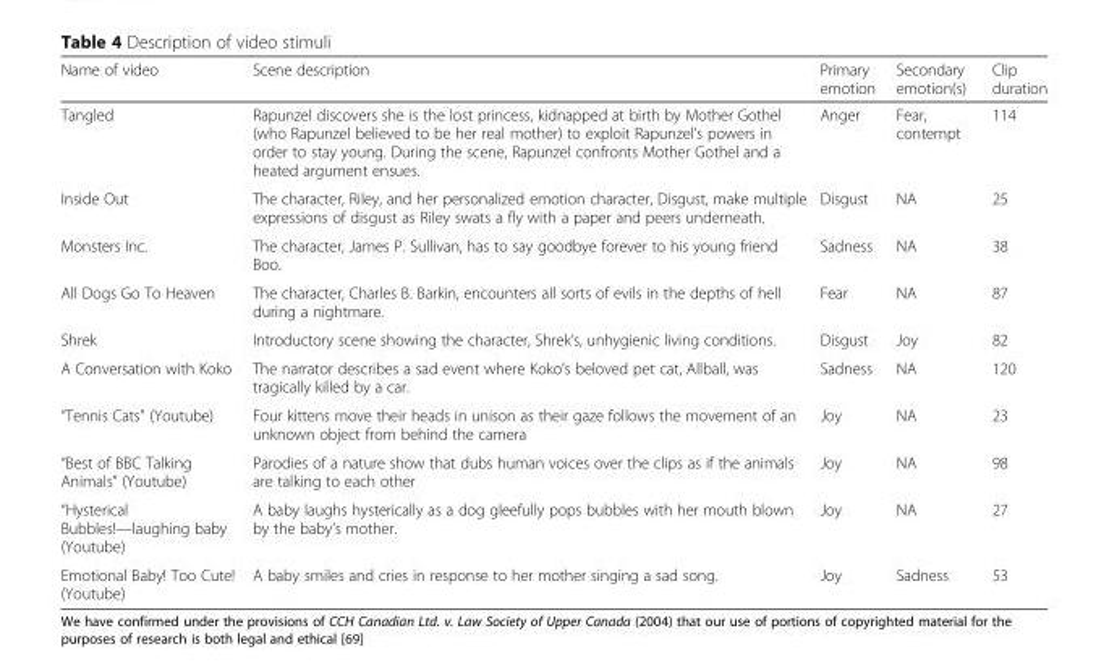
<table><thead><tr><td>Name of video</td><td>Scene description</td><td>Primary emotion</td><td>Secondary emotion(s)</td><td>Clip duration</td></tr></thead><tbody><tr><td>Tangled</td><td>Rapunzel discovers she is the lost princess, kidnapped at birth by Mother Gothel (who Rapunzel believed to be her real mother) to exploit Rapunzel’s powers in order to stay young. During the scene, Rapunzel confronts Mother Gothel and a heated argument ensues.</td><td>Anger</td><td>Fear, contempt</td><td>114</td></tr><tr><td>Inside Out</td><td>The character, Riley, and her personalized emotion character, Disgust, make multiple expressions of disgust as Riley swats a fly with a paper and peers underneath.</td><td>Disgust</td><td>NA</td><td>25</td></tr><tr><td>Monsters Inc.</td><td>The character, James P. Sullivan, has to say goodbye forever to his young friend Boo.</td><td>Sadness</td><td>NA</td><td>38</td></tr><tr><td>All Dogs Go To Heaven</td><td>The character, Charles B. Barkin, encounters all sorts of evils in the depths of hell during a nightmare.</td><td>Fear</td><td>NA</td><td>87</td></tr><tr><td>Shrek</td><td>Introductory scene showing the character, Shrek’s, unhygienic living conditions.</td><td>Disgust</td><td>Joy</td><td>82</td></tr><tr><td>A Conversation with Koko</td><td>The narrator describes a sad event where Koko’s beloved pet cat, Allball, was tragically killed by a car.</td><td>Sadness</td><td>NA</td><td>120</td></tr><tr><td>“Tennis Cats” (Youtube)</td><td>Four kittens move their heads in unison as their gaze follows the movement of an unknown object from behind the camera</td><td>Joy</td><td>NA</td><td>23</td></tr><tr><td>“Best of BBC Talking Animals” (Youtube)</td><td>Parodies of a nature show that dubs human voices over the clips as if the animals are talking to each other</td><td>Joy</td><td>NA</td><td>98</td></tr><tr><td>“Hysterical Bubbles!—laughing baby (Youtube)</td><td>A baby laughs hysterically as a dog gleefully pops bubbles with her mouth blown by the baby’s mother.</td><td>Joy</td><td>NA</td><td>27</td></tr><tr><td>Emotional Baby! Too Cute! (Youtube)</td><td>A baby smiles and cries in response to her mother singing a sad song.</td><td>Joy</td><td>Sadness</td><td>53</td></tr></tbody></table>